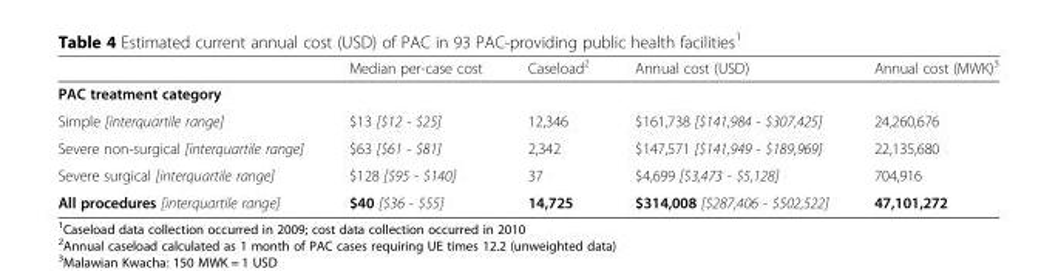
<table><thead><tr><td></td><td>Median per-case cost</td><td>Caseload<sup>2</sup></td><td>Annual cost (USD)</td><td>Annual cost (MWK)<sup>3</sup></td></tr></thead><tbody><tr><td colspan="5">PAC treatment category</td></tr><tr><td>Simple [interquartile range]</td><td>$13 [$12 - $25]</td><td>12,346</td><td>$161,738 [$141,984 - $307,425]</td><td>24,260,676</td></tr><tr><td>Severe non-surgical [interquartile range]</td><td>$63 [$61 - $81]</td><td>2,342</td><td>$147,571 [$141,949 - $189,969]</td><td>22,135,680</td></tr><tr><td>Severe surgical [interquartile range]</td><td>$128 [$95 - $140]</td><td>37</td><td>$4,699 [$3,473 - $5,128]</td><td>704,916</td></tr><tr><td>All procedures [interquartile range]</td><td>$40 [$36 - $55]</td><td>14,725</td><td>$314,008 [$287,406 - $502,522]</td><td>47,101,272</td></tr></tbody></table>